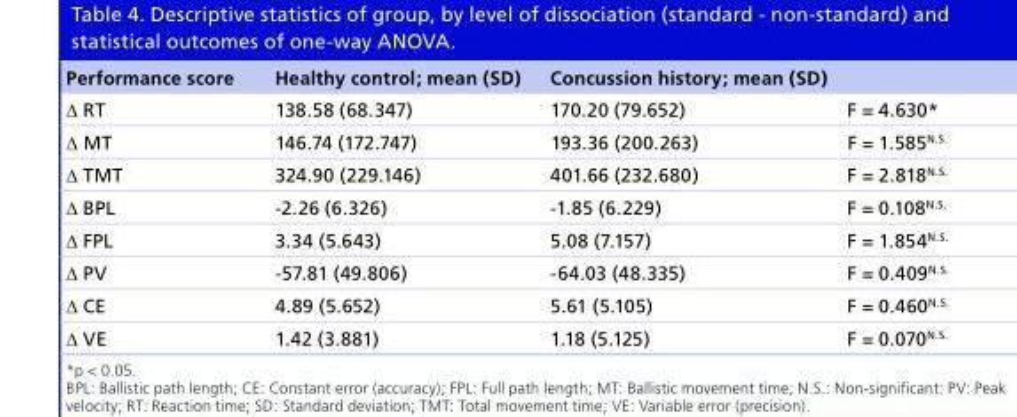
<table><thead><tr><td>Performance score</td><td>Healthy control; mean (SD)</td><td>Concussion history; mean (SD)</td><td></td></tr></thead><tbody><tr><td>Δ RT</td><td>138.58 (68.347)</td><td>170.20 (79.652)</td><td>F = 4.630*</td></tr><tr><td>Δ MT</td><td>146.74 (172.747)</td><td>193.36 (200.263)</td><td>F = 1.585<sup>N.S.</sup></td></tr><tr><td>Δ TMT</td><td>324.90 (229.146)</td><td>401.66 (232.680)</td><td>F = 2.818<sup>N.S.</sup></td></tr><tr><td>Δ BPL</td><td>-2.26 (6.326)</td><td>-1.85 (6.229)</td><td>F = 0.108<sup>N.S.</sup></td></tr><tr><td>Δ FPL</td><td>3.34 (5.643)</td><td>5.08 (7.157)</td><td>F = 1.854<sup>N.S.</sup></td></tr><tr><td>Δ PV</td><td>-57.81 (49.806)</td><td>-64.03 (48.335)</td><td>F = 0.409<sup>N.S.</sup></td></tr><tr><td>Δ CE</td><td>4.89 (5.652)</td><td>5.61 (5.105)</td><td>F = 0.460<sup>N.S.</sup></td></tr><tr><td>Δ VE</td><td>1.42 (3.881)</td><td>1.18 (5.125)</td><td>F = 0.070<sup>N.S.</sup></td></tr></tbody></table>